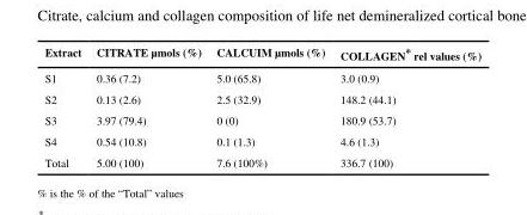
<table><thead><tr><td>Extract</td><td>CITRATE μmols (%)</td><td>CALCUIM μmols (%)</td><td>COLLAGEN* rel values (%)</td></tr></thead><tbody><tr><td>S1</td><td>0.36 (7.2)</td><td>5.0 (65.8)</td><td>3.0 (0.9)</td></tr><tr><td>S2</td><td>0.13 (2.6)</td><td>2.5 (32.9)</td><td>148.2 (44.1)</td></tr><tr><td>S3</td><td>3.97 (79.4)</td><td>0 (0)</td><td>180.9 (53.7)</td></tr><tr><td>S4</td><td>0.54 (10.8)</td><td>0.1 (1.3)</td><td>4.6 (1.3)</td></tr><tr><td>Total</td><td>5.00 (100)</td><td>7.6 (100%)</td><td>336.7 (100)</td></tr></tbody></table>